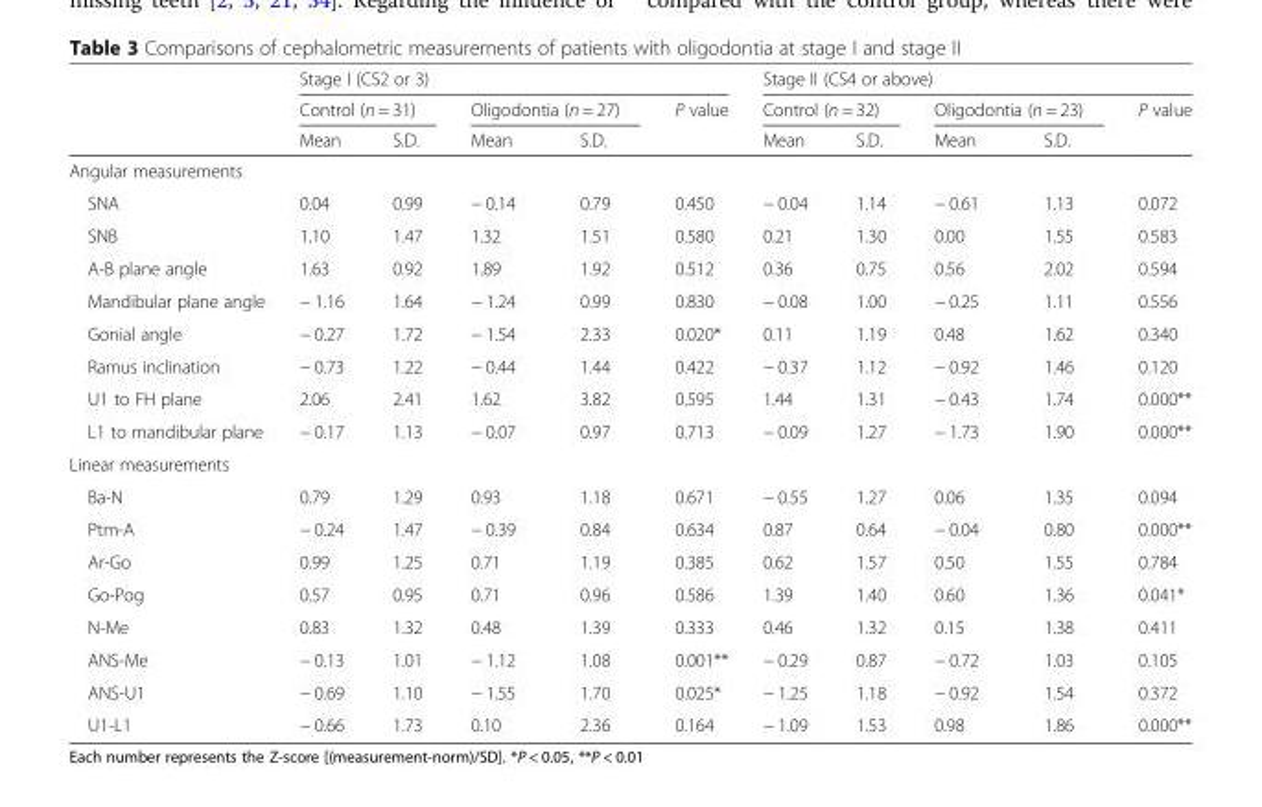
<table><thead><tr><td rowspan="3"></td><td colspan="5">Stage I (CS2 or 3)</td><td colspan="5">Stage II (CS4 or above)</td></tr><tr><td colspan="2">Control (n = 31)</td><td colspan="2">Oligodontia (n = 27)</td><td rowspan="2">P value</td><td colspan="2">Control (n = 32)</td><td colspan="2">Oligodontia (n = 23)</td><td rowspan="2">P value</td></tr><tr><td>Mean</td><td>S.D.</td><td>Mean</td><td>S.D.</td><td>Mean</td><td>S.D.</td><td>Mean</td><td>S.D.</td></tr></thead><tbody><tr><td colspan="11">Angular measurements</td></tr><tr><td>SNA</td><td>0.04</td><td>0.99</td><td>− 0.14</td><td>0.79</td><td>0.450</td><td>− 0.04</td><td>1.14</td><td>− 0.61</td><td>1.13</td><td>0.072</td></tr><tr><td>SNB</td><td>1.10</td><td>1.47</td><td>1.32</td><td>1.51</td><td>0.580</td><td>0.21</td><td>1.30</td><td>0.00</td><td>1.55</td><td>0.583</td></tr><tr><td>A-B plane angle</td><td>1.63</td><td>0.92</td><td>1.89</td><td>1.92</td><td>0.512</td><td>0.36</td><td>0.75</td><td>0.56</td><td>2.02</td><td>0.594</td></tr><tr><td>Mandibular plane angle</td><td>− 1.16</td><td>1.64</td><td>− 1.24</td><td>0.99</td><td>0.830</td><td>− 0.08</td><td>1.00</td><td>− 0.25</td><td>1.11</td><td>0.556</td></tr><tr><td>Gonial angle</td><td>− 0.27</td><td>1.72</td><td>− 1.54</td><td>2.33</td><td>0.020*</td><td>0.11</td><td>1.19</td><td>0.48</td><td>1.62</td><td>0.340</td></tr><tr><td>Ramus inclination</td><td>− 0.73</td><td>1.22</td><td>− 0.44</td><td>1.44</td><td>0.422</td><td>− 0.37</td><td>1.12</td><td>− 0.92</td><td>1.46</td><td>0.120</td></tr><tr><td>U1 to FH plane</td><td>2.06</td><td>2.41</td><td>1.62</td><td>3.82</td><td>0.595</td><td>1.44</td><td>1.31</td><td>− 0.43</td><td>1.74</td><td>0.000**</td></tr><tr><td>L1 to mandibular plane</td><td>− 0.17</td><td>1.13</td><td>− 0.07</td><td>0.97</td><td>0.713</td><td>− 0.09</td><td>1.27</td><td>− 1.73</td><td>1.90</td><td>0.000**</td></tr><tr><td colspan="11">Linear measurements</td></tr><tr><td>Ba-N</td><td>0.79</td><td>1.29</td><td>0.93</td><td>1.18</td><td>0.671</td><td>− 0.55</td><td>1.27</td><td>0.06</td><td>1.35</td><td>0.094</td></tr><tr><td>Ptm-A</td><td>− 0.24</td><td>1.47</td><td>− 0.39</td><td>0.84</td><td>0.634</td><td>0.87</td><td>0.64</td><td>− 0.04</td><td>0.80</td><td>0.000**</td></tr><tr><td>Ar-Go</td><td>0.99</td><td>1.25</td><td>0.71</td><td>1.19</td><td>0.385</td><td>0.62</td><td>1.57</td><td>0.50</td><td>1.55</td><td>0.784</td></tr><tr><td>Go-Pog</td><td>0.57</td><td>0.95</td><td>0.71</td><td>0.96</td><td>0.586</td><td>1.39</td><td>1.40</td><td>0.60</td><td>1.36</td><td>0.041*</td></tr><tr><td>N-Me</td><td>0.83</td><td>1.32</td><td>0.48</td><td>1.39</td><td>0.333</td><td>0.46</td><td>1.32</td><td>0.15</td><td>1.38</td><td>0.411</td></tr><tr><td>ANS-Me</td><td>− 0.13</td><td>1.01</td><td>− 1.12</td><td>1.08</td><td>0.001**</td><td>− 0.29</td><td>0.87</td><td>− 0.72</td><td>1.03</td><td>0.105</td></tr><tr><td>ANS-U1</td><td>− 0.69</td><td>1.10</td><td>− 1.55</td><td>1.70</td><td>0.025*</td><td>− 1.25</td><td>1.18</td><td>− 0.92</td><td>1.54</td><td>0.372</td></tr><tr><td>U1-L1</td><td>− 0.66</td><td>1.73</td><td>0.10</td><td>2.36</td><td>0.164</td><td>− 1.09</td><td>1.53</td><td>0.98</td><td>1.86</td><td>0.000**</td></tr></tbody></table>